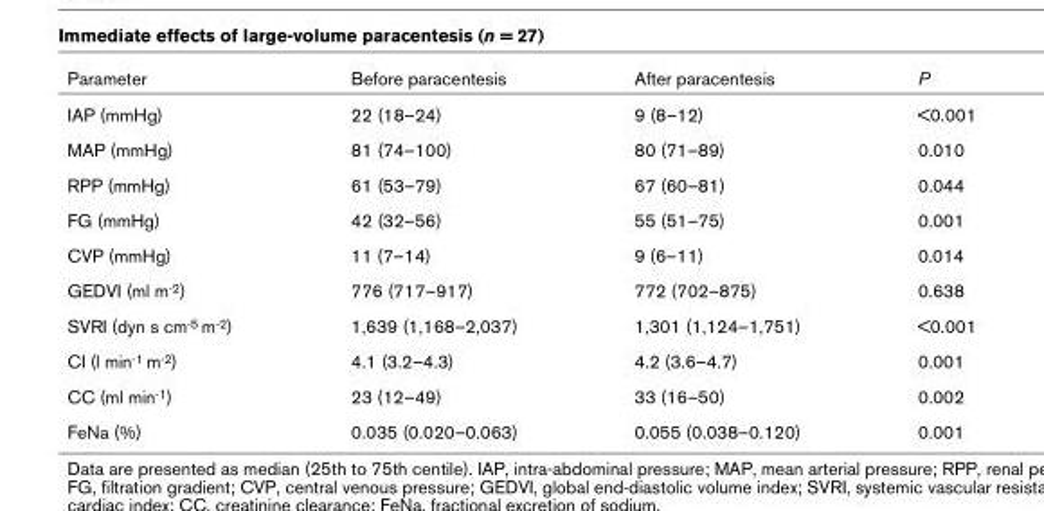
<table><thead><tr><td>Parameter</td><td>Before paracentesis</td><td>After paracentesis</td><td>P</td></tr></thead><tbody><tr><td>IAP (mmHg)</td><td>22 (18–24)</td><td>9 (8–12)</td><td>&lt;0.001</td></tr><tr><td>MAP (mmHg)</td><td>81 (74–100)</td><td>80 (71–89)</td><td>0.010</td></tr><tr><td>RPP (mmHg)</td><td>61 (53–79)</td><td>67 (60–81)</td><td>0.044</td></tr><tr><td>FG (mmHg)</td><td>42 (32–56)</td><td>55 (51–75)</td><td>0.001</td></tr><tr><td>CVP (mmHg)</td><td>11 (7–14)</td><td>9 (6–11)</td><td>0.014</td></tr><tr><td>GEDVI (ml m<sup>-2</sup>)</td><td>776 (717–917)</td><td>772 (702–875)</td><td>0.638</td></tr><tr><td>SVRI (dyn s cm<sup>-5</sup> m<sup>-2</sup>)</td><td>1,639 (1,168–2,037)</td><td>1,301 (1,124–1,751)</td><td>&lt;0.001</td></tr><tr><td>CI (l min<sup>-1</sup> m<sup>-2</sup>)</td><td>4.1 (3.2–4.3)</td><td>4.2 (3.6–4.7)</td><td>0.001</td></tr><tr><td>CC (ml min<sup>-1</sup>)</td><td>23 (12–49)</td><td>33 (16–50)</td><td>0.002</td></tr><tr><td>FeNa (%)</td><td>0.035 (0.020–0.063)</td><td>0.055 (0.038–0.120)</td><td>0.001</td></tr></tbody></table>